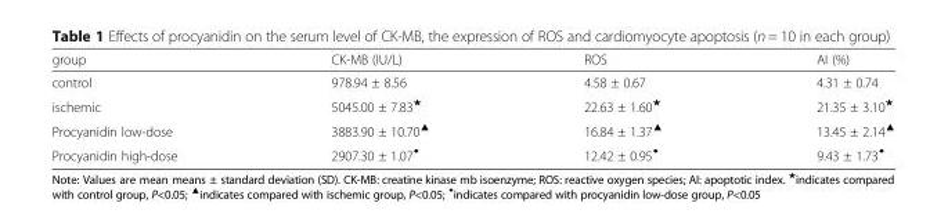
<table><thead><tr><td>group</td><td>CK-MB (IU/L)</td><td>ROS</td><td>AI (%)</td></tr></thead><tbody><tr><td>control</td><td>978.94 ± 8.56</td><td>4.58 ± 0.67</td><td>4.31 ± 0.74</td></tr><tr><td>ischemic</td><td>5045.00 ± 7.83<sup>★</sup></td><td>22.63 ± 1.60<sup>★</sup></td><td>21.35 ± 3.10<sup>★</sup></td></tr><tr><td>Procyanidin low-dose</td><td>3883.90 ± 10.70<sup>▲</sup></td><td>16.84 ± 1.37<sup>▲</sup></td><td>13.45 ± 2.14<sup>▲</sup></td></tr><tr><td>Procyanidin high-dose</td><td>2907.30 ± 1.07<sup>◆</sup></td><td>12.42 ± 0.95<sup>◆</sup></td><td>9.43 ± 1.73<sup>◆</sup></td></tr></tbody></table>